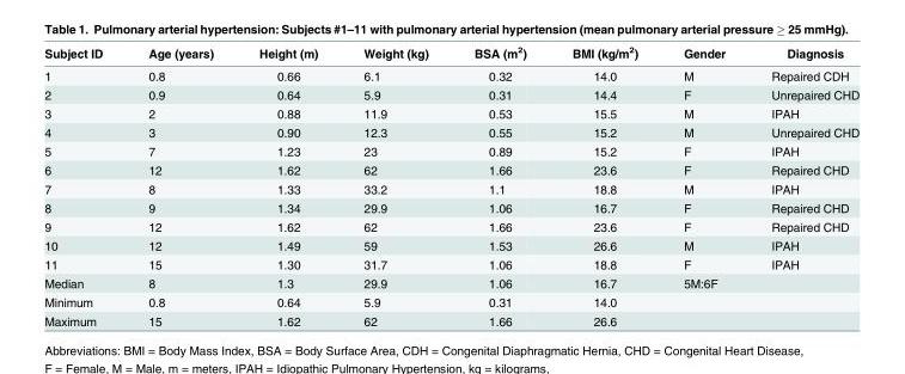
<table><thead><tr><td>Subject ID</td><td>Age (years)</td><td>Height (m)</td><td>Weight (kg)</td><td>BSA (m<sup>2</sup>)</td><td>BMI (kg/m<sup>2</sup>)</td><td>Gender</td><td>Diagnosis</td></tr></thead><tbody><tr><td>1</td><td>0.8</td><td>0.66</td><td>6.1</td><td>0.32</td><td>14.0</td><td>M</td><td>Repaired CDH</td></tr><tr><td>2</td><td>0.9</td><td>0.64</td><td>5.9</td><td>0.31</td><td>14.4</td><td>F</td><td>Unrepaired CHD</td></tr><tr><td>3</td><td>2</td><td>0.88</td><td>11.9</td><td>0.53</td><td>15.5</td><td>M</td><td>IPAH</td></tr><tr><td>4</td><td>3</td><td>0.90</td><td>12.3</td><td>0.55</td><td>15.2</td><td>M</td><td>Unrepaired CHD</td></tr><tr><td>5</td><td>7</td><td>1.23</td><td>23</td><td>0.89</td><td>15.2</td><td>F</td><td>IPAH</td></tr><tr><td>6</td><td>12</td><td>1.62</td><td>62</td><td>1.66</td><td>23.6</td><td>F</td><td>Repaired CHD</td></tr><tr><td>7</td><td>8</td><td>1.33</td><td>33.2</td><td>1.1</td><td>18.8</td><td>M</td><td>IPAH</td></tr><tr><td>8</td><td>9</td><td>1.34</td><td>29.9</td><td>1.06</td><td>16.7</td><td>F</td><td>Repaired CHD</td></tr><tr><td>9</td><td>12</td><td>1.62</td><td>62</td><td>1.66</td><td>23.6</td><td>F</td><td>Repaired CHD</td></tr><tr><td>10</td><td>12</td><td>1.49</td><td>59</td><td>1.53</td><td>26.6</td><td>M</td><td>IPAH</td></tr><tr><td>11</td><td>15</td><td>1.30</td><td>31.7</td><td>1.06</td><td>18.8</td><td>F</td><td>IPAH</td></tr><tr><td>Median</td><td>8</td><td>1.3</td><td>29.9</td><td>1.06</td><td>16.7</td><td>5M:6F</td><td></td></tr><tr><td>Minimum</td><td>0.8</td><td>0.64</td><td>5.9</td><td>0.31</td><td>14.0</td><td></td><td></td></tr><tr><td>Maximum</td><td>15</td><td>1.62</td><td>62</td><td>1.66</td><td>26.6</td><td></td><td></td></tr></tbody></table>